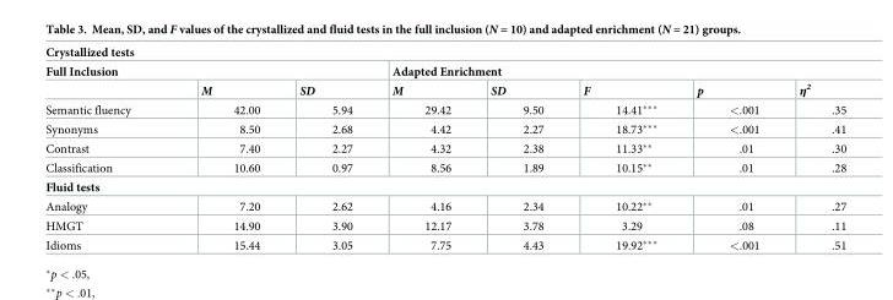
<table><thead><tr><td colspan="8">Crystallized tests</td></tr><tr><td colspan="3">Full Inclusion</td><td colspan="5">Adapted Enrichment</td></tr><tr><td></td><td>M</td><td>SD</td><td>M</td><td>SD</td><td>F</td><td>p</td><td>η<sup>2</sup></td></tr></thead><tbody><tr><td>Semantic fluency</td><td>42.00</td><td>5.94</td><td>29.42</td><td>9.50</td><td>14.41***</td><td>&lt;.001</td><td>.35</td></tr><tr><td>Synonyms</td><td>8.50</td><td>2.68</td><td>4.42</td><td>2.27</td><td>18.73***</td><td>&lt;.001</td><td>.41</td></tr><tr><td>Contrast</td><td>7.40</td><td>2.27</td><td>4.32</td><td>2.38</td><td>11.33**</td><td>.01</td><td>.30</td></tr><tr><td>Classification</td><td>10.60</td><td>0.97</td><td>8.56</td><td>1.89</td><td>10.15**</td><td>.01</td><td>.28</td></tr><tr><td colspan="8">Fluid tests</td></tr><tr><td>Analogy</td><td>7.20</td><td>2.62</td><td>4.16</td><td>2.34</td><td>10.22**</td><td>.01</td><td>.27</td></tr><tr><td>HMGT</td><td>14.90</td><td>3.90</td><td>12.17</td><td>3.78</td><td>3.29</td><td>.08</td><td>.11</td></tr><tr><td>Idioms</td><td>15.44</td><td>3.05</td><td>7.75</td><td>4.43</td><td>19.92***</td><td>&lt;.001</td><td>.51</td></tr></tbody></table>